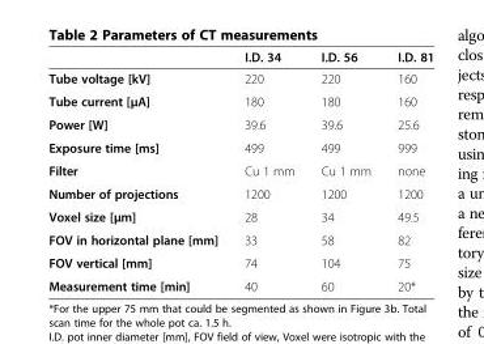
<table><thead><tr><td></td><td>I.D. 34</td><td>I.D. 56</td><td>I.D. 81</td></tr></thead><tbody><tr><td>Tube voltage [kV]</td><td>220</td><td>220</td><td>160</td></tr><tr><td>Tube current [μA]</td><td>180</td><td>180</td><td>160</td></tr><tr><td>Power [W]</td><td>39.6</td><td>39.6</td><td>25.6</td></tr><tr><td>Exposure time [ms]</td><td>499</td><td>499</td><td>999</td></tr><tr><td>Filter</td><td>Cu 1 mm</td><td>Cu 1 mm</td><td>none</td></tr><tr><td>Number of projections</td><td>1200</td><td>1200</td><td>1200</td></tr><tr><td>Voxel size [μm]</td><td>28</td><td>34</td><td>49.5</td></tr><tr><td>FOV in horizontal plane [mm]</td><td>33</td><td>58</td><td>82</td></tr><tr><td>FOV vertical [mm]</td><td>74</td><td>104</td><td>75</td></tr><tr><td>Measurement time [min]</td><td>40</td><td>60</td><td>20*</td></tr></tbody></table>